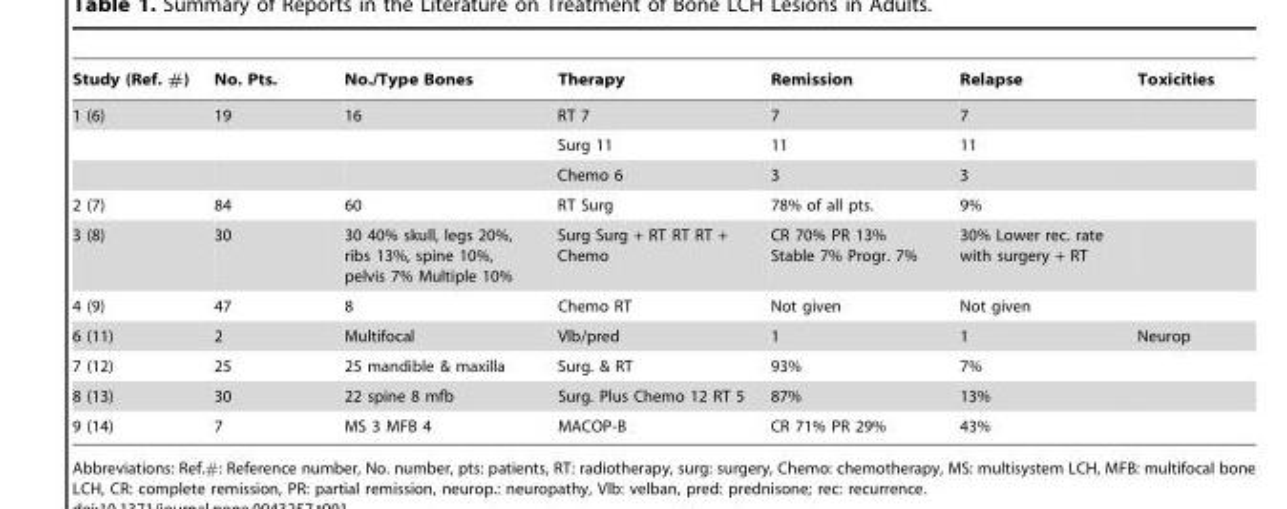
<table><thead><tr><td>Study (Ref. #)</td><td>No. Pts.</td><td>No./Type Bones</td><td>Therapy</td><td>Remission</td><td>Relapse</td><td>Toxicities</td></tr></thead><tbody><tr><td rowspan="3">1 (6)</td><td>19</td><td>16</td><td>RT 7</td><td>7</td><td>7</td><td></td></tr><tr><td></td><td></td><td>Surg 11</td><td>11</td><td>11</td><td></td></tr><tr><td></td><td></td><td>Chemo 6</td><td>3</td><td>3</td><td></td></tr><tr><td>2 (7)</td><td>84</td><td>60</td><td>RT Surg</td><td>78% of all pts.</td><td>9%</td><td></td></tr><tr><td>3 (8)</td><td>30</td><td>30 40% skull, legs 20%, ribs 13%, spine 10%, pelvis 7% Multiple 10%</td><td>Surg Surg + RT RT RT + Chemo</td><td>CR 70% PR 13% Stable 7% Progr. 7%</td><td>30% Lower rec. rate with surgery + RT</td><td></td></tr><tr><td>4 (9)</td><td>47</td><td>8</td><td>Chemo RT</td><td>Not given</td><td>Not given</td><td></td></tr><tr><td>6 (11)</td><td>2</td><td>Multifocal</td><td>Vlb/pred</td><td>1</td><td>1</td><td>Neurop</td></tr><tr><td>7 (12)</td><td>25</td><td>25 mandible &amp; maxilla</td><td>Surg. &amp; RT</td><td>93%</td><td>7%</td><td></td></tr><tr><td>8 (13)</td><td>30</td><td>22 spine 8 mfb</td><td>Surg. Plus Chemo 12 RT 5</td><td>87%</td><td>13%</td><td></td></tr><tr><td>9 (14)</td><td>7</td><td>MS 3 MFB 4</td><td>MACOP-B</td><td>CR 71% PR 29%</td><td>43%</td><td></td></tr></tbody></table>